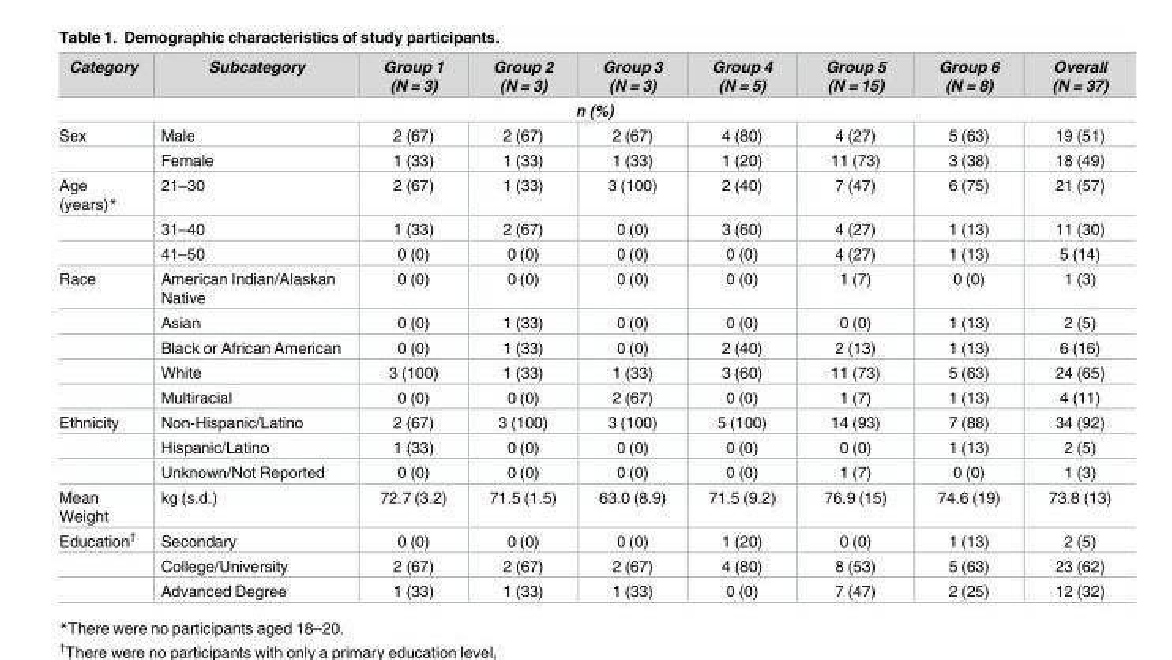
<table><thead><tr><td>Category</td><td>Subcategory</td><td>Group 1 (N = 3)</td><td>Group 2 (N = 3)</td><td>Group 3 (N = 3)</td><td>Group 4 (N = 5)</td><td>Group 5 (N = 15)</td><td>Group 6 (N = 8)</td><td>Overall (N = 37)</td></tr><tr><td colspan="9">n (%)</td></tr></thead><tbody><tr><td rowspan="2">Sex</td><td>Male</td><td>2 (67)</td><td>2 (67)</td><td>2 (67)</td><td>4 (80)</td><td>4 (27)</td><td>5 (63)</td><td>19 (51)</td></tr><tr><td>Female</td><td>1 (33)</td><td>1 (33)</td><td>1 (33)</td><td>1 (20)</td><td>11 (73)</td><td>3 (38)</td><td>18 (49)</td></tr><tr><td rowspan="3">Age (years)*</td><td>21–30</td><td>2 (67)</td><td>1 (33)</td><td>3 (100)</td><td>2 (40)</td><td>7 (47)</td><td>6 (75)</td><td>21 (57)</td></tr><tr><td>31–40</td><td>1 (33)</td><td>2 (67)</td><td>0 (0)</td><td>3 (60)</td><td>4 (27)</td><td>1 (13)</td><td>11 (30)</td></tr><tr><td>41–50</td><td>0 (0)</td><td>0 (0)</td><td>0 (0)</td><td>0 (0)</td><td>4 (27)</td><td>1 (13)</td><td>5 (14)</td></tr><tr><td rowspan="5">Race</td><td>American Indian/Alaskan Native</td><td>0 (0)</td><td>0 (0)</td><td>0 (0)</td><td>0 (0)</td><td>1 (7)</td><td>0 (0)</td><td>1 (3)</td></tr><tr><td>Asian</td><td>0 (0)</td><td>1 (33)</td><td>0 (0)</td><td>0 (0)</td><td>0 (0)</td><td>1 (13)</td><td>2 (5)</td></tr><tr><td>Black or African American</td><td>0 (0)</td><td>1 (33)</td><td>0 (0)</td><td>2 (40)</td><td>2 (13)</td><td>1 (13)</td><td>6 (16)</td></tr><tr><td>White</td><td>3 (100)</td><td>1 (33)</td><td>1 (33)</td><td>3 (60)</td><td>11 (73)</td><td>5 (63)</td><td>24 (65)</td></tr><tr><td>Multiracial</td><td>0 (0)</td><td>0 (0)</td><td>2 (67)</td><td>0 (0)</td><td>1 (7)</td><td>1 (13)</td><td>4 (11)</td></tr><tr><td rowspan="3">Ethnicity</td><td>Non-Hispanic/Latino</td><td>2 (67)</td><td>3 (100)</td><td>3 (100)</td><td>5 (100)</td><td>14 (93)</td><td>7 (88)</td><td>34 (92)</td></tr><tr><td>Hispanic/Latino</td><td>1 (33)</td><td>0 (0)</td><td>0 (0)</td><td>0 (0)</td><td>0 (0)</td><td>1 (13)</td><td>2 (5)</td></tr><tr><td>Unknown/Not Reported</td><td>0 (0)</td><td>0 (0)</td><td>0 (0)</td><td>0 (0)</td><td>1 (7)</td><td>0 (0)</td><td>1 (3)</td></tr><tr><td>Mean Weight</td><td>kg (s.d.)</td><td>72.7 (3.2)</td><td>71.5 (1.5)</td><td>63.0 (8.9)</td><td>71.5 (9.2)</td><td>76.9 (15)</td><td>74.6 (19)</td><td>73.8 (13)</td></tr><tr><td rowspan="3">Education<sup>†</sup></td><td>Secondary</td><td>0 (0)</td><td>0 (0)</td><td>0 (0)</td><td>1 (20)</td><td>0 (0)</td><td>1 (13)</td><td>2 (5)</td></tr><tr><td>College/University</td><td>2 (67)</td><td>2 (67)</td><td>2 (67)</td><td>4 (80)</td><td>8 (53)</td><td>5 (63)</td><td>23 (62)</td></tr><tr><td>Advanced Degree</td><td>1 (33)</td><td>1 (33)</td><td>1 (33)</td><td>0 (0)</td><td>7 (47)</td><td>2 (25)</td><td>12 (32)</td></tr></tbody></table>